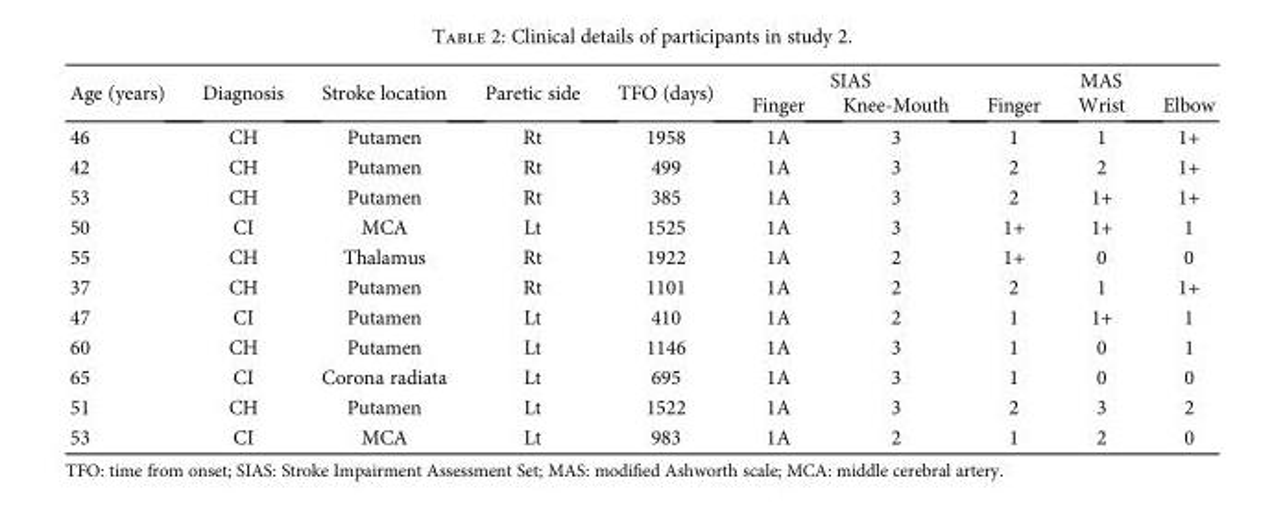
<table><thead><tr><td rowspan="2">Age (years)</td><td rowspan="2">Diagnosis</td><td rowspan="2">Stroke location</td><td rowspan="2">Paretic side</td><td rowspan="2">TFO (days)</td><td colspan="2">SIAS</td><td colspan="3">MAS</td></tr><tr><td>Finger</td><td>Knee-Mouth</td><td>Finger</td><td>Wrist</td><td>Elbow</td></tr></thead><tbody><tr><td>46</td><td>CH</td><td>Putamen</td><td>Rt</td><td>1958</td><td>1A</td><td>3</td><td>1</td><td>1</td><td>1+</td></tr><tr><td>42</td><td>CH</td><td>Putamen</td><td>Rt</td><td>499</td><td>1A</td><td>3</td><td>2</td><td>2</td><td>1+</td></tr><tr><td>53</td><td>CH</td><td>Putamen</td><td>Rt</td><td>385</td><td>1A</td><td>3</td><td>2</td><td>1+</td><td>1+</td></tr><tr><td>50</td><td>CI</td><td>MCA</td><td>Lt</td><td>1525</td><td>1A</td><td>3</td><td>1+</td><td>1+</td><td>1</td></tr><tr><td>55</td><td>CH</td><td>Thalamus</td><td>Rt</td><td>1922</td><td>1A</td><td>2</td><td>1+</td><td>0</td><td>0</td></tr><tr><td>37</td><td>CH</td><td>Putamen</td><td>Rt</td><td>1101</td><td>1A</td><td>2</td><td>2</td><td>1</td><td>1+</td></tr><tr><td>47</td><td>CI</td><td>Putamen</td><td>Lt</td><td>410</td><td>1A</td><td>2</td><td>1</td><td>1+</td><td>1</td></tr><tr><td>60</td><td>CH</td><td>Putamen</td><td>Lt</td><td>1146</td><td>1A</td><td>3</td><td>1</td><td>0</td><td>1</td></tr><tr><td>65</td><td>CI</td><td>Corona radiata</td><td>Lt</td><td>695</td><td>1A</td><td>3</td><td>1</td><td>0</td><td>0</td></tr><tr><td>51</td><td>CH</td><td>Putamen</td><td>Lt</td><td>1522</td><td>1A</td><td>3</td><td>2</td><td>3</td><td>2</td></tr><tr><td>53</td><td>CI</td><td>MCA</td><td>Lt</td><td>983</td><td>1A</td><td>2</td><td>1</td><td>2</td><td>0</td></tr></tbody></table>